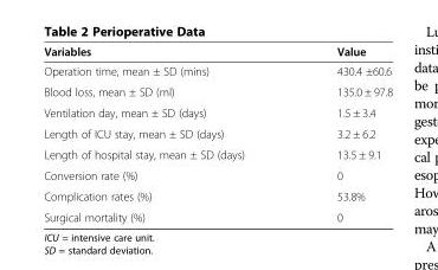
<table><thead><tr><td>Variables</td><td>Value</td></tr></thead><tbody><tr><td>Operation time, mean ± SD (mins)</td><td>430.4 ±60.6</td></tr><tr><td>Blood loss, mean ± SD (ml)</td><td>135.0 ± 97.8</td></tr><tr><td>Ventilation day, mean ± SD (days)</td><td>1.5 ± 3.4</td></tr><tr><td>Length of ICU stay, mean ± SD (days)</td><td>3.2 ± 6.2</td></tr><tr><td>Length of hospital stay, mean ± SD (days)</td><td>13.5 ± 9.1</td></tr><tr><td>Conversion rate (%)</td><td>0</td></tr><tr><td>Complication rates (%)</td><td>53.8%</td></tr><tr><td>Surgical mortality (%)</td><td>0</td></tr></tbody></table>